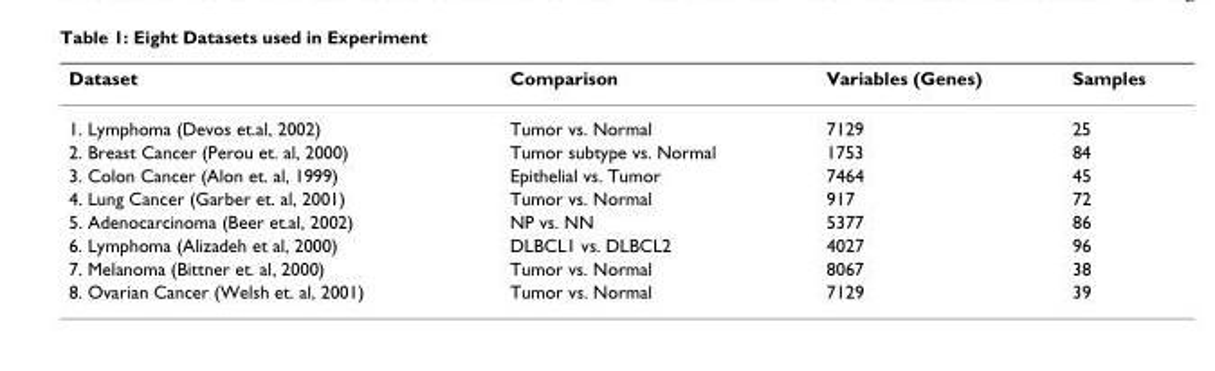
<table><thead><tr><td>Dataset</td><td>Comparison</td><td>Variables (Genes)</td><td>Samples</td></tr></thead><tbody><tr><td>1. Lymphoma (Devos et.al, 2002)</td><td>Tumor vs. Normal</td><td>7129</td><td>25</td></tr><tr><td>2. Breast Cancer (Perou et. al, 2000)</td><td>Tumor subtype vs. Normal</td><td>1753</td><td>84</td></tr><tr><td>3. Colon Cancer (Alon et. al, 1999)</td><td>Epithelial vs. Tumor</td><td>7464</td><td>45</td></tr><tr><td>4. Lung Cancer (Garber et. al, 2001)</td><td>Tumor vs. Normal</td><td>917</td><td>72</td></tr><tr><td>5. Adenocarcinoma (Beer et.al, 2002)</td><td>NP vs. NN</td><td>5377</td><td>86</td></tr><tr><td>6. Lymphoma (Alizadeh et al, 2000)</td><td>DLBCL1 vs. DLBCL2</td><td>4027</td><td>96</td></tr><tr><td>7. Melanoma (Bittner et. al, 2000)</td><td>Tumor vs. Normal</td><td>8067</td><td>38</td></tr><tr><td>8. Ovarian Cancer (Welsh et. al, 2001)</td><td>Tumor vs. Normal</td><td>7129</td><td>39</td></tr></tbody></table>